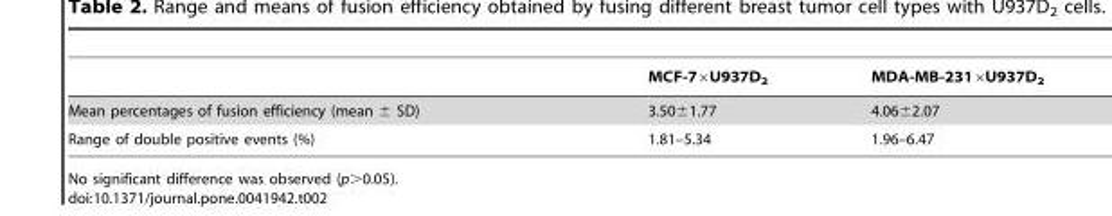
<table><thead><tr><td></td><td>MCF-7×U937D<sub>2</sub></td><td>MDA-MB-231×U937D<sub>2</sub></td></tr></thead><tbody><tr><td>Mean percentages of fusion efficiency (mean ± SD)</td><td>3.50±1.77</td><td>4.06±2.07</td></tr><tr><td>Range of double positive events (%)</td><td>1.81–5.34</td><td>1.96–6.47</td></tr></tbody></table>